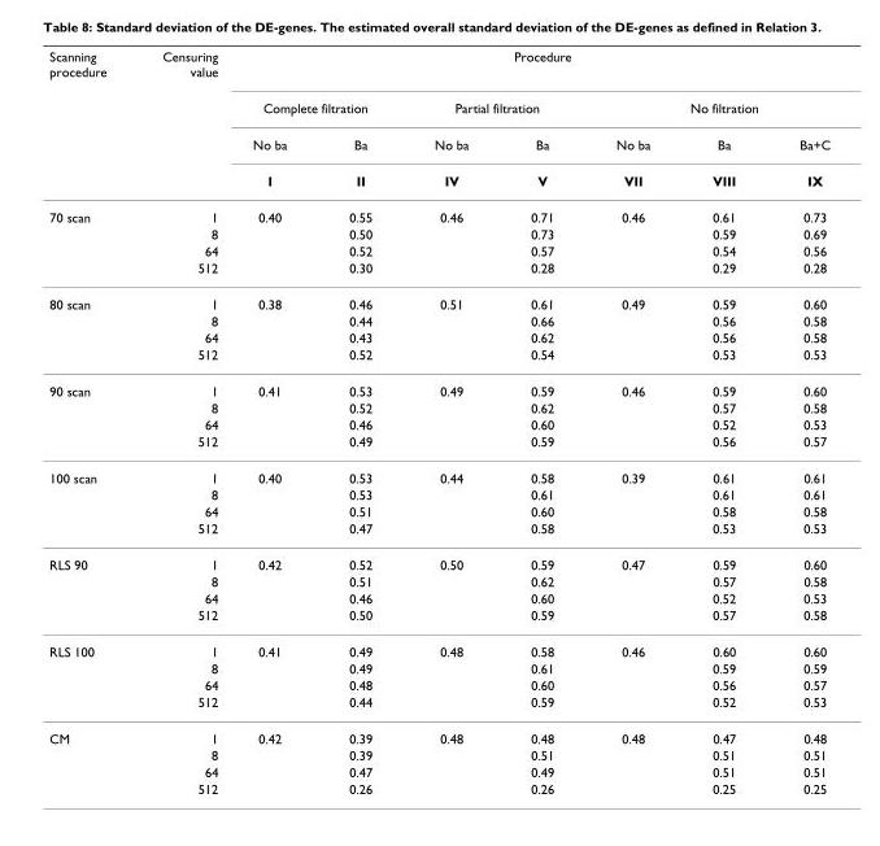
<table><thead><tr><td rowspan="4">Scanning procedure</td><td rowspan="4">Censuring value</td><td colspan="7">Procedure</td></tr><tr><td colspan="2">Complete filtration</td><td colspan="2">Partial filtration</td><td colspan="3">No filtration</td></tr><tr><td rowspan="2">No ba I</td><td rowspan="2">Ba II</td><td rowspan="2">No ba IV</td><td rowspan="2">Ba V</td><td rowspan="2">No ba VII</td><td rowspan="2">Ba VIII</td><td rowspan="2">Ba+C IX</td></tr><tr></tr></thead><tbody><tr><td rowspan="4">70 scan</td><td>1</td><td>0.40</td><td>0.55</td><td>0.46</td><td>0.71</td><td>0.46</td><td>0.61</td><td>0.73</td></tr><tr><td>8</td><td></td><td>0.50</td><td></td><td>0.73</td><td></td><td>0.59</td><td>0.69</td></tr><tr><td>64</td><td></td><td>0.52</td><td></td><td>0.57</td><td></td><td>0.54</td><td>0.56</td></tr><tr><td>512</td><td></td><td>0.30</td><td></td><td>0.28</td><td></td><td>0.29</td><td>0.28</td></tr><tr><td rowspan="4">80 scan</td><td>1</td><td>0.38</td><td>0.46</td><td>0.51</td><td>0.61</td><td>0.49</td><td>0.59</td><td>0.60</td></tr><tr><td>8</td><td></td><td>0.44</td><td></td><td>0.66</td><td></td><td>0.56</td><td>0.58</td></tr><tr><td>64</td><td></td><td>0.43</td><td></td><td>0.62</td><td></td><td>0.56</td><td>0.58</td></tr><tr><td>512</td><td></td><td>0.52</td><td></td><td>0.54</td><td></td><td>0.53</td><td>0.53</td></tr><tr><td rowspan="4">90 scan</td><td>1</td><td>0.41</td><td>0.53</td><td>0.49</td><td>0.59</td><td>0.46</td><td>0.59</td><td>0.60</td></tr><tr><td>8</td><td></td><td>0.52</td><td></td><td>0.62</td><td></td><td>0.57</td><td>0.58</td></tr><tr><td>64</td><td></td><td>0.46</td><td></td><td>0.60</td><td></td><td>0.52</td><td>0.53</td></tr><tr><td>512</td><td></td><td>0.49</td><td></td><td>0.59</td><td></td><td>0.56</td><td>0.57</td></tr><tr><td rowspan="4">100 scan</td><td>1</td><td>0.40</td><td>0.53</td><td>0.44</td><td>0.58</td><td>0.39</td><td>0.61</td><td>0.61</td></tr><tr><td>8</td><td></td><td>0.53</td><td></td><td>0.61</td><td></td><td>0.61</td><td>0.61</td></tr><tr><td>64</td><td></td><td>0.51</td><td></td><td>0.60</td><td></td><td>0.58</td><td>0.58</td></tr><tr><td>512</td><td></td><td>0.47</td><td></td><td>0.58</td><td></td><td>0.53</td><td>0.53</td></tr><tr><td rowspan="4">RLS 90</td><td>1</td><td>0.42</td><td>0.52</td><td>0.50</td><td>0.59</td><td>0.47</td><td>0.59</td><td>0.60</td></tr><tr><td>8</td><td></td><td>0.51</td><td></td><td>0.62</td><td></td><td>0.57</td><td>0.58</td></tr><tr><td>64</td><td></td><td>0.46</td><td></td><td>0.60</td><td></td><td>0.52</td><td>0.53</td></tr><tr><td>512</td><td></td><td>0.50</td><td></td><td>0.59</td><td></td><td>0.57</td><td>0.58</td></tr><tr><td rowspan="4">RLS 100</td><td>1</td><td>0.41</td><td>0.49</td><td>0.48</td><td>0.58</td><td>0.46</td><td>0.60</td><td>0.60</td></tr><tr><td>8</td><td></td><td>0.49</td><td></td><td>0.61</td><td></td><td>0.59</td><td>0.59</td></tr><tr><td>64</td><td></td><td>0.48</td><td></td><td>0.60</td><td></td><td>0.56</td><td>0.57</td></tr><tr><td>512</td><td></td><td>0.44</td><td></td><td>0.59</td><td></td><td>0.52</td><td>0.53</td></tr><tr><td rowspan="4">CM</td><td>1</td><td>0.42</td><td>0.39</td><td>0.48</td><td>0.48</td><td>0.48</td><td>0.47</td><td>0.48</td></tr><tr><td>8</td><td></td><td>0.39</td><td></td><td>0.51</td><td></td><td>0.51</td><td>0.51</td></tr><tr><td>64</td><td></td><td>0.47</td><td></td><td>0.49</td><td></td><td>0.51</td><td>0.51</td></tr><tr><td>512</td><td></td><td>0.26</td><td></td><td>0.26</td><td></td><td>0.25</td><td>0.25</td></tr></tbody></table>